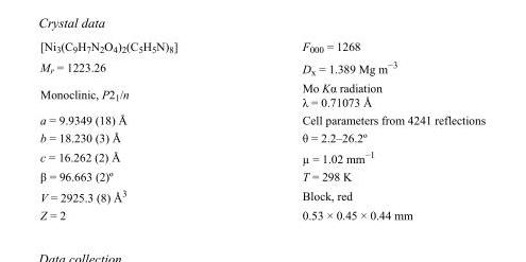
<table><tbody><tr><td>[Ni<sub>3</sub>(C<sub>9</sub>H<sub>7</sub>N<sub>2</sub>O<sub>4</sub>)<sub>2</sub>(C<sub>5</sub>H<sub>5</sub>N)<sub>8</sub>]</td><td>F000 = 1268</td></tr><tr><td>M<sub>r</sub> = 1223.26</td><td>D<sub>x</sub> = 1.389 Mg m<sup>−3</sup></td></tr><tr><td>Monoclinic, P2<sub>1</sub>/n</td><td>Mo Kα radiation λ = 0.71073 Å</td></tr><tr><td>a = 9.9349 (18) Å</td><td>Cell parameters from 4241 reflections</td></tr><tr><td>b = 18.230 (3) Å</td><td>θ = 2.2–26.2º</td></tr><tr><td>c = 16.262 (2) Å</td><td>µ = 1.02 mm<sup>−1</sup></td></tr><tr><td>β = 96.663 (2)º</td><td>T = 298 K</td></tr><tr><td>V = 2925.3 (8) Å<sup>3</sup></td><td>Block, red</td></tr><tr><td>Z = 2</td><td>0.53 × 0.45 × 0.44 mm</td></tr></tbody></table>